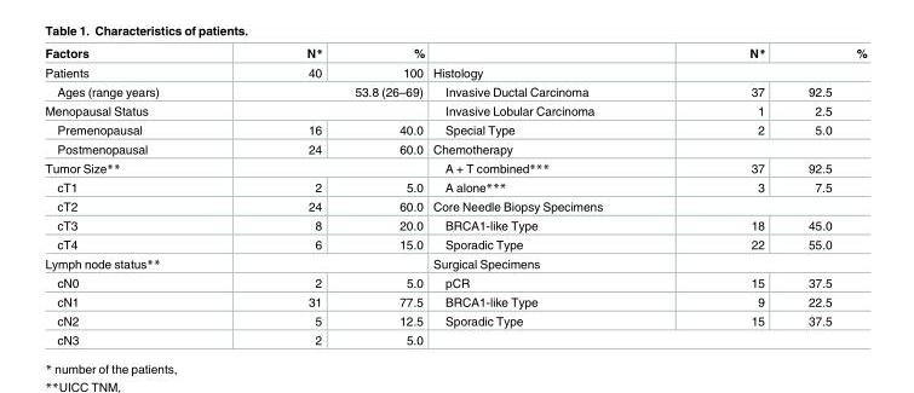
<table><thead><tr><td>Factors</td><td>N*</td><td>%</td><td></td><td>N*</td><td>%</td></tr></thead><tbody><tr><td>Patients</td><td>40</td><td>100</td><td>Histology</td><td colspan="2"></td></tr><tr><td>Ages (range years)</td><td colspan="2">53.8 (26–69)</td><td>Invasive Ductal Carcinoma</td><td>37</td><td>92.5</td></tr><tr><td>Menopausal Status</td><td colspan="2"></td><td>Invasive Lobular Carcinoma</td><td>1</td><td>2.5</td></tr><tr><td>Premenopausal</td><td>16</td><td>40.0</td><td>Special Type</td><td>2</td><td>5.0</td></tr><tr><td>Postmenopausal</td><td>24</td><td>60.0</td><td>Chemotherapy</td><td colspan="2"></td></tr><tr><td>Tumor Size**</td><td colspan="2"></td><td>A + T combined***</td><td>37</td><td>92.5</td></tr><tr><td>cT1</td><td>2</td><td>5.0</td><td>A alone***</td><td>3</td><td>7.5</td></tr><tr><td>cT2</td><td>24</td><td>60.0</td><td>Core Needle Biopsy Specimens</td><td colspan="2"></td></tr><tr><td>cT3</td><td>8</td><td>20.0</td><td>BRCA1-like Type</td><td>18</td><td>45.0</td></tr><tr><td>cT4</td><td>6</td><td>15.0</td><td>Sporadic Type</td><td>22</td><td>55.0</td></tr><tr><td>Lymph node status**</td><td colspan="2"></td><td>Surgical Specimens</td><td colspan="2"></td></tr><tr><td>cN0</td><td>2</td><td>5.0</td><td>pCR</td><td>15</td><td>37.5</td></tr><tr><td>cN1</td><td>31</td><td>77.5</td><td>BRCA1-like Type</td><td>9</td><td>22.5</td></tr><tr><td>cN2</td><td>5</td><td>12.5</td><td>Sporadic Type</td><td>15</td><td>37.5</td></tr><tr><td>cN3</td><td>2</td><td>5.0</td><td colspan="3"></td></tr></tbody></table>